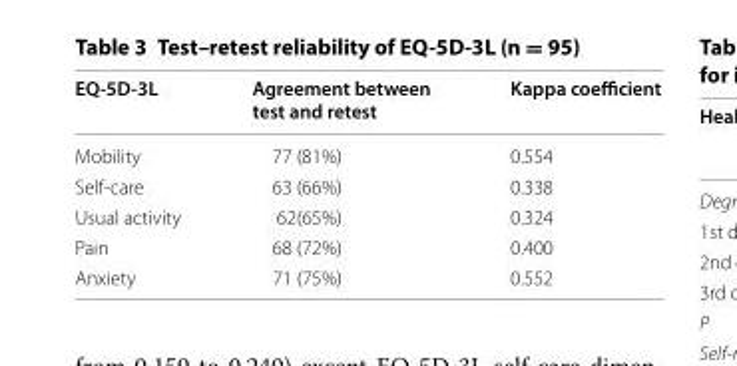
<table><thead><tr><td>EQ‑5D‑3L</td><td>Agreement between test and retest</td><td>Kappa coefficient</td></tr></thead><tbody><tr><td>Mobility</td><td>77 (81%)</td><td>0.554</td></tr><tr><td>Self-care</td><td>63 (66%)</td><td>0.338</td></tr><tr><td>Usual activity</td><td>62(65%)</td><td>0.324</td></tr><tr><td>Pain</td><td>68 (72%)</td><td>0.400</td></tr><tr><td>Anxiety</td><td>71 (75%)</td><td>0.552</td></tr></tbody></table>